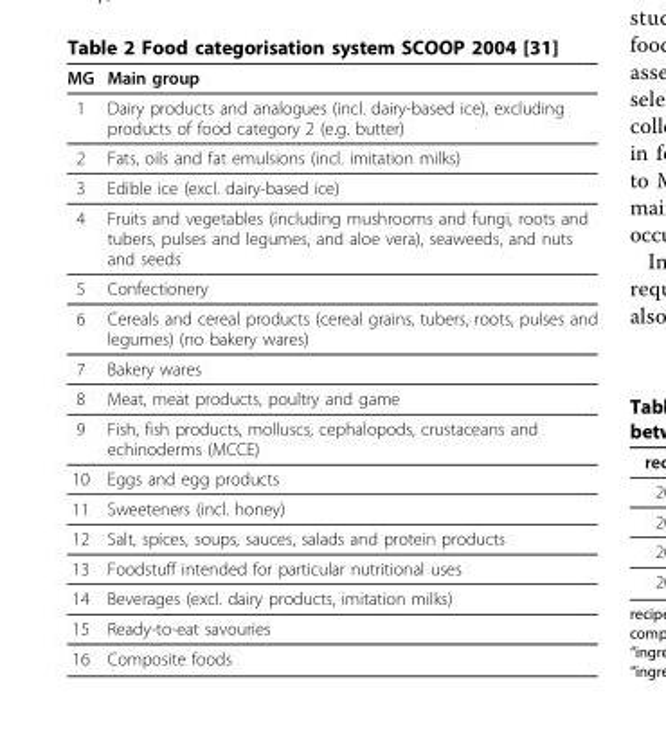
<table><thead><tr><td>MG</td><td>Main group</td></tr></thead><tbody><tr><td>1</td><td>Dairy products and analogues (incl. dairy-based ice), excluding products of food category 2 (e.g. butter)</td></tr><tr><td>2</td><td>Fats, oils and fat emulsions (incl. imitation milks)</td></tr><tr><td>3</td><td>Edible ice (excl. dairy-based ice)</td></tr><tr><td>4</td><td>Fruits and vegetables (including mushrooms and fungi, roots and tubers, pulses and legumes, and aloe vera), seaweeds, and nuts and seeds</td></tr><tr><td>5</td><td>Confectionery</td></tr><tr><td>6</td><td>Cereals and cereal products (cereal grains, tubers, roots, pulses and legumes) (no bakery wares)</td></tr><tr><td>7</td><td>Bakery wares</td></tr><tr><td>8</td><td>Meat, meat products, poultry and game</td></tr><tr><td>9</td><td>Fish, fish products, molluscs, cephalopods, crustaceans and echinoderms (MCCE)</td></tr><tr><td>10</td><td>Eggs and egg products</td></tr><tr><td>11</td><td>Sweeteners (incl. honey)</td></tr><tr><td>12</td><td>Salt, spices, soups, sauces, salads and protein products</td></tr><tr><td>13</td><td>Foodstuff intended for particular nutritional uses</td></tr><tr><td>14</td><td>Beverages (excl. dairy products, imitation milks)</td></tr><tr><td>15</td><td>Ready-to-eat savouries</td></tr><tr><td>16</td><td>Composite foods</td></tr></tbody></table>